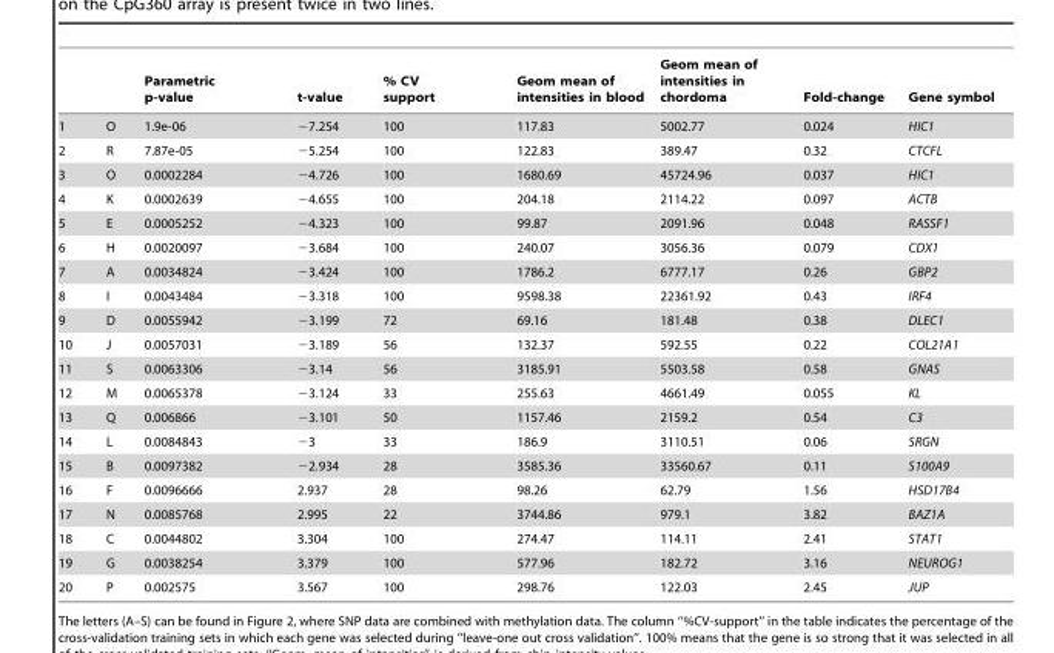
<table><thead><tr><td></td><td></td><td>Parametric p-value</td><td>t-value</td><td>% CV support</td><td>Geom mean of intensities in blood</td><td>Geom mean of intensities in chordoma</td><td>Fold-change</td><td>Gene symbol</td></tr></thead><tbody><tr><td>1</td><td>O</td><td>1.9e-06</td><td>−7.254</td><td>100</td><td>117.83</td><td>5002.77</td><td>0.024</td><td>HIC1</td></tr><tr><td>2</td><td>R</td><td>7.87e-05</td><td>−5.254</td><td>100</td><td>122.83</td><td>389.47</td><td>0.32</td><td>CTCFL</td></tr><tr><td>3</td><td>O</td><td>0.0002284</td><td>−4.726</td><td>100</td><td>1680.69</td><td>45724.96</td><td>0.037</td><td>HIC1</td></tr><tr><td>4</td><td>K</td><td>0.0002639</td><td>−4.655</td><td>100</td><td>204.18</td><td>2114.22</td><td>0.097</td><td>ACTB</td></tr><tr><td>5</td><td>E</td><td>0.0005252</td><td>−4.323</td><td>100</td><td>99.87</td><td>2091.96</td><td>0.048</td><td>RASSF1</td></tr><tr><td>6</td><td>H</td><td>0.0020097</td><td>−3.684</td><td>100</td><td>240.07</td><td>3056.36</td><td>0.079</td><td>CDX1</td></tr><tr><td>7</td><td>A</td><td>0.0034824</td><td>−3.424</td><td>100</td><td>1786.2</td><td>6777.17</td><td>0.26</td><td>GBP2</td></tr><tr><td>8</td><td>I</td><td>0.0043484</td><td>−3.318</td><td>100</td><td>9598.38</td><td>22361.92</td><td>0.43</td><td>IRF4</td></tr><tr><td>9</td><td>D</td><td>0.0055942</td><td>−3.199</td><td>72</td><td>69.16</td><td>181.48</td><td>0.38</td><td>DLEC1</td></tr><tr><td>10</td><td>J</td><td>0.0057031</td><td>−3.189</td><td>56</td><td>132.37</td><td>592.55</td><td>0.22</td><td>COL21A1</td></tr><tr><td>11</td><td>S</td><td>0.0063306</td><td>−3.14</td><td>56</td><td>3185.91</td><td>5503.58</td><td>0.58</td><td>GNAS</td></tr><tr><td>12</td><td>M</td><td>0.0065378</td><td>−3.124</td><td>33</td><td>255.63</td><td>4661.49</td><td>0.055</td><td>KL</td></tr><tr><td>13</td><td>Q</td><td>0.006866</td><td>−3.101</td><td>50</td><td>1157.46</td><td>2159.2</td><td>0.54</td><td>C3</td></tr><tr><td>14</td><td>L</td><td>0.0084843</td><td>−3</td><td>33</td><td>186.9</td><td>3110.51</td><td>0.06</td><td>SRGN</td></tr><tr><td>15</td><td>B</td><td>0.0097382</td><td>−2.934</td><td>28</td><td>3585.36</td><td>33560.67</td><td>0.11</td><td>S100A9</td></tr><tr><td>16</td><td>F</td><td>0.0096666</td><td>2.937</td><td>28</td><td>98.26</td><td>62.79</td><td>1.56</td><td>HSD17B4</td></tr><tr><td>17</td><td>N</td><td>0.0085768</td><td>2.995</td><td>22</td><td>3744.86</td><td>979.1</td><td>3.82</td><td>BAZ1A</td></tr><tr><td>18</td><td>C</td><td>0.0044802</td><td>3.304</td><td>100</td><td>274.47</td><td>114.11</td><td>2.41</td><td>STAT1</td></tr><tr><td>19</td><td>G</td><td>0.0038254</td><td>3.379</td><td>100</td><td>577.96</td><td>182.72</td><td>3.16</td><td>NEUROG1</td></tr><tr><td>20</td><td>P</td><td>0.002575</td><td>3.567</td><td>100</td><td>298.76</td><td>122.03</td><td>2.45</td><td>JUP</td></tr></tbody></table>